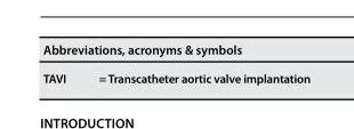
<table><thead><tr><td colspan="2">Abbreviations, acronyms &amp; symbols</td></tr><tr><td>TAVI</td><td>= Transcatheter aortic valve implantation</td></tr></thead><tbody></tbody></table>